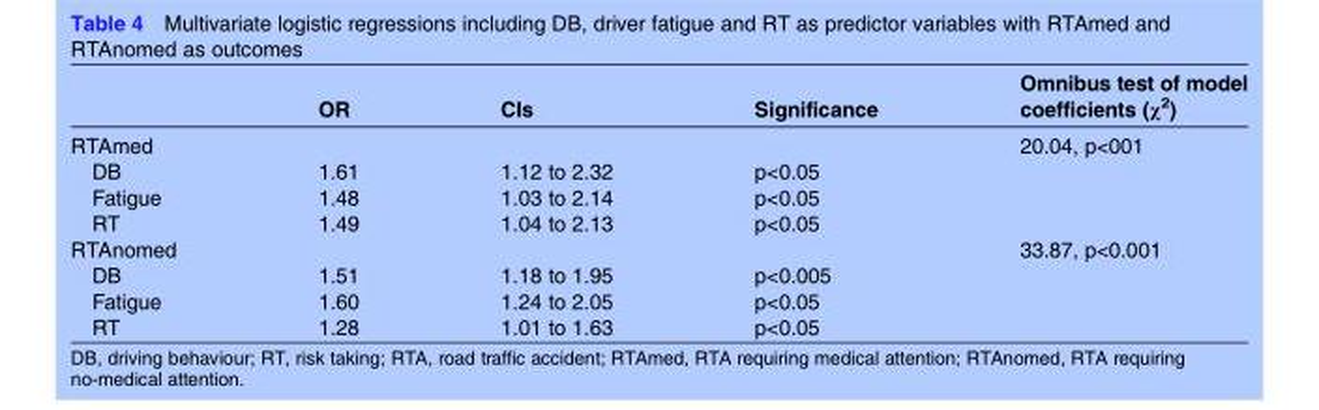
<table><thead><tr><td></td><td>OR</td><td>CIs</td><td>Significance</td><td>Omnibus test of model coefficients (χ<sup>2</sup>)</td></tr></thead><tbody><tr><td>RTAmed</td><td></td><td></td><td></td><td>20.04, p&lt;001</td></tr><tr><td>DB</td><td>1.61</td><td>1.12 to 2.32</td><td>p&lt;0.05</td><td></td></tr><tr><td>Fatigue</td><td>1.48</td><td>1.03 to 2.14</td><td>p&lt;0.05</td><td></td></tr><tr><td>RT</td><td>1.49</td><td>1.04 to 2.13</td><td>p&lt;0.05</td><td></td></tr><tr><td>RTAnomed</td><td></td><td></td><td></td><td>33.87, p&lt;0.001</td></tr><tr><td>DB</td><td>1.51</td><td>1.18 to 1.95</td><td>p&lt;0.005</td><td></td></tr><tr><td>Fatigue</td><td>1.60</td><td>1.24 to 2.05</td><td>p&lt;0.05</td><td></td></tr><tr><td>RT</td><td>1.28</td><td>1.01 to 1.63</td><td>p&lt;0.05</td><td></td></tr></tbody></table>